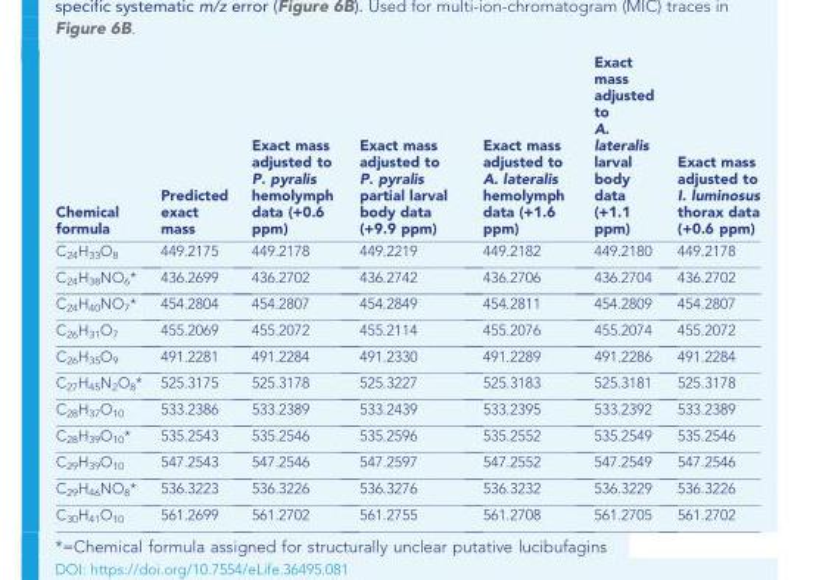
<table><thead><tr><td>Chemical formula</td><td>Predicted exact mass</td><td>Exact mass adjusted to P. pyralis hemolymph data (+0.6 ppm)</td><td>Exact mass adjusted to P. pyralis partial larval body data (+9.9 ppm)</td><td>Exact mass adjusted to A. lateralis hemolymph data (+1.6 ppm)</td><td>Exact mass adjusted to A. lateralis larval body data (+1.1 ppm)</td><td>Exact mass adjusted to I. luminosus thorax data (+0.6 ppm)</td></tr></thead><tbody><tr><td>C<sub>24</sub>H<sub>33</sub>O<sub>8</sub></td><td>449.2175</td><td>449.2178</td><td>449.2219</td><td>449.2182</td><td>449.2180</td><td>449.2178</td></tr><tr><td>C<sub>24</sub>H<sub>38</sub>NO<sub>6</sub>*</td><td>436.2699</td><td>436.2702</td><td>436.2742</td><td>436.2706</td><td>436.2704</td><td>436.2702</td></tr><tr><td>C<sub>24</sub>H<sub>40</sub>NO<sub>7</sub>*</td><td>454.2804</td><td>454.2807</td><td>454.2849</td><td>454.2811</td><td>454.2809</td><td>454.2807</td></tr><tr><td>C<sub>26</sub>H<sub>31</sub>O<sub>7</sub></td><td>455.2069</td><td>455.2072</td><td>455.2114</td><td>455.2076</td><td>455.2074</td><td>455.2072</td></tr><tr><td>C<sub>26</sub>H<sub>35</sub>O<sub>9</sub></td><td>491.2281</td><td>491.2284</td><td>491.2330</td><td>491.2289</td><td>491.2286</td><td>491.2284</td></tr><tr><td>C<sub>27</sub>H<sub>45</sub>N<sub>2</sub>O<sub>8</sub>*</td><td>525.3175</td><td>525.3178</td><td>525.3227</td><td>525.3183</td><td>525.3181</td><td>525.3178</td></tr><tr><td>C<sub>28</sub>H<sub>37</sub>O<sub>10</sub></td><td>533.2386</td><td>533.2389</td><td>533.2439</td><td>533.2395</td><td>533.2392</td><td>533.2389</td></tr><tr><td>C<sub>28</sub>H<sub>39</sub>O<sub>10</sub>*</td><td>535.2543</td><td>535.2546</td><td>535.2596</td><td>535.2552</td><td>535.2549</td><td>535.2546</td></tr><tr><td>C<sub>29</sub>H<sub>39</sub>O<sub>10</sub></td><td>547.2543</td><td>547.2546</td><td>547.2597</td><td>547.2552</td><td>547.2549</td><td>547.2546</td></tr><tr><td>C<sub>29</sub>H<sub>46</sub>NO<sub>8</sub>*</td><td>536.3223</td><td>536.3226</td><td>536.3276</td><td>536.3232</td><td>536.3229</td><td>536.3226</td></tr><tr><td>C<sub>30</sub>H<sub>41</sub>O<sub>10</sub></td><td>561.2699</td><td>561.2702</td><td>561.2755</td><td>561.2708</td><td>561.2705</td><td>561.2702</td></tr></tbody></table>